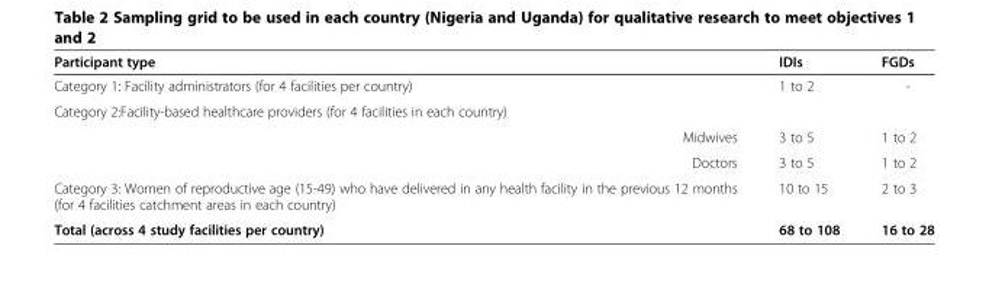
<table><thead><tr><td>Participant type</td><td>IDIs</td><td>FGDs</td></tr></thead><tbody><tr><td>Category 1: Facility administrators (for 4 facilities per country)</td><td>1 to 2</td><td>-</td></tr><tr><td colspan="3">Category 2:Facility-based healthcare providers (for 4 facilities in each country)</td></tr><tr><td>Midwives</td><td>3 to 5</td><td>1 to 2</td></tr><tr><td>Doctors</td><td>3 to 5</td><td>1 to 2</td></tr><tr><td>Category 3: Women of reproductive age (15-49) who have delivered in any health facility in the previous 12 months (for 4 facilities catchment areas in each country)</td><td>10 to 15</td><td>2 to 3</td></tr><tr><td>Total (across 4 study facilities per country)</td><td>68 to 108</td><td>16 to 28</td></tr></tbody></table>